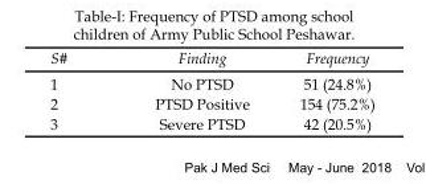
<table><thead><tr><td>S#</td><td>Finding</td><td>Frequency</td></tr></thead><tbody><tr><td>1</td><td>No PTSD</td><td>51 (24.8%)</td></tr><tr><td>2</td><td>PTSD Positive</td><td>154 (75.2%)</td></tr><tr><td>3</td><td>Severe PTSD</td><td>42 (20.5%)</td></tr></tbody></table>